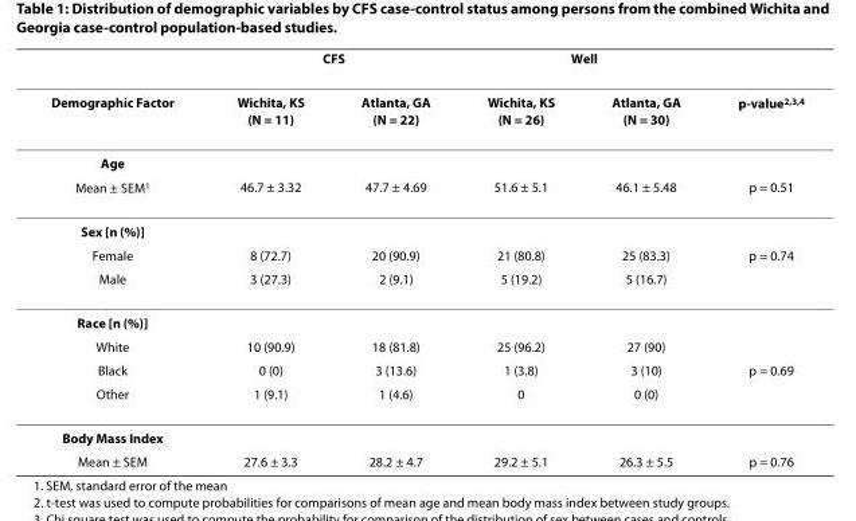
<table><thead><tr><td rowspan="2">Demographic Factor</td><td colspan="2">CFS</td><td colspan="2">Well</td><td rowspan="2">p-value<sup>2,3,4</sup></td></tr><tr><td>Wichita, KS (N = 11)</td><td>Atlanta, GA (N = 22)</td><td>Wichita, KS (N = 26)</td><td>Atlanta, GA (N = 30)</td></tr></thead><tbody><tr><td colspan="6">Age</td></tr><tr><td>Mean ± SEM<sup>1</sup></td><td>46.7 ± 3.32</td><td>47.7 ± 4.69</td><td>51.6 ± 5.1</td><td>46.1 ± 5.48</td><td>p = 0.51</td></tr><tr><td colspan="6">Sex [n (%)]</td></tr><tr><td>Female</td><td>8 (72.7)</td><td>20 (90.9)</td><td>21 (80.8)</td><td>25 (83.3)</td><td>p = 0.74</td></tr><tr><td>Male</td><td>3 (27.3)</td><td>2 (9.1)</td><td>5 (19.2)</td><td>5 (16.7)</td><td></td></tr><tr><td colspan="6">Race [n (%)]</td></tr><tr><td>White</td><td>10 (90.9)</td><td>18 (81.8)</td><td>25 (96.2)</td><td>27 (90)</td><td></td></tr><tr><td>Black</td><td>0 (0)</td><td>3 (13.6)</td><td>1 (3.8)</td><td>3 (10)</td><td>p = 0.69</td></tr><tr><td>Other</td><td>1 (9.1)</td><td>1 (4.6)</td><td>0</td><td>0 (0)</td><td></td></tr><tr><td colspan="6">Body Mass Index</td></tr><tr><td>Mean ± SEM</td><td>27.6 ± 3.3</td><td>28.2 ± 4.7</td><td>29.2 ± 5.1</td><td>26.3 ± 5.5</td><td>p = 0.76</td></tr></tbody></table>